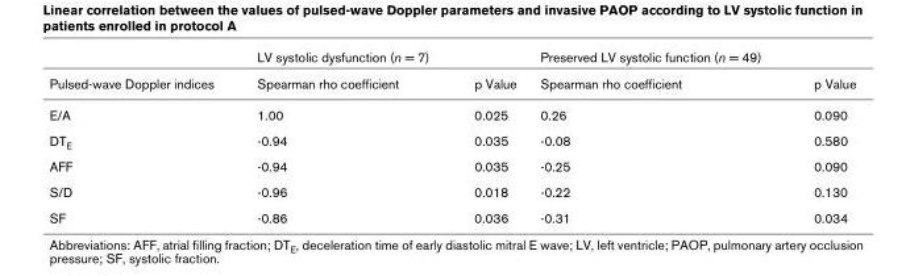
<table><thead><tr><td></td><td>LV systolic dysfunction (n = 7)</td><td></td><td>Preserved LV systolic function (n = 49)</td><td></td></tr></thead><tbody><tr><td>Pulsed-wave Doppler indices</td><td>Spearman rho coefficient</td><td>p Value</td><td>Spearman rho coefficient</td><td>p Value</td></tr><tr><td>E/A</td><td>1.00</td><td>0.025</td><td>0.26</td><td>0.090</td></tr><tr><td>DT<sub>E</sub></td><td>-0.94</td><td>0.035</td><td>-0.08</td><td>0.580</td></tr><tr><td>AFF</td><td>-0.94</td><td>0.035</td><td>-0.25</td><td>0.090</td></tr><tr><td>S/D</td><td>-0.96</td><td>0.018</td><td>-0.22</td><td>0.130</td></tr><tr><td>SF</td><td>-0.86</td><td>0.036</td><td>-0.31</td><td>0.034</td></tr></tbody></table>